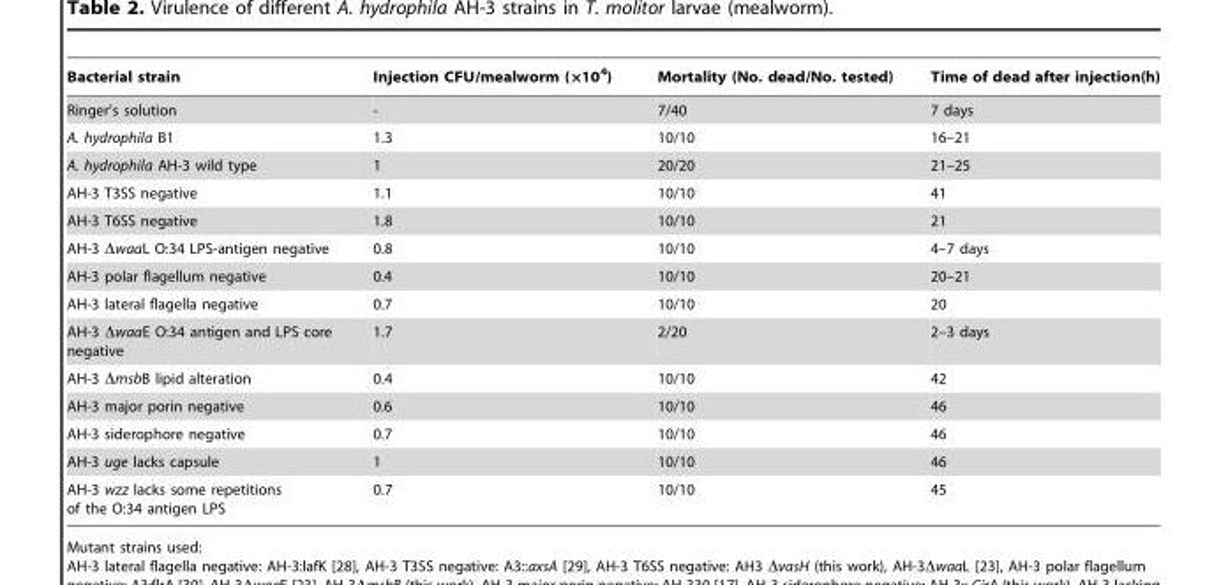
<table><thead><tr><td>Bacterial strain</td><td>Injection CFU/mealworm (×10<sup>4</sup>)</td><td>Mortality (No. dead/No. tested)</td><td>Time of dead after injection(h)</td></tr></thead><tbody><tr><td>Ringer’s solution</td><td>-</td><td>7/40</td><td>7 days</td></tr><tr><td>A. hydrophila B1</td><td>1.3</td><td>10/10</td><td>16–21</td></tr><tr><td>A. hydrophila AH-3 wild type</td><td>1</td><td>20/20</td><td>21–25</td></tr><tr><td>AH-3 T3SS negative</td><td>1.1</td><td>10/10</td><td>41</td></tr><tr><td>AH-3 T6SS negative</td><td>1.8</td><td>10/10</td><td>21</td></tr><tr><td>AH-3 ΔwaaL O:34 LPS-antigen negative</td><td>0.8</td><td>10/10</td><td>4–7 days</td></tr><tr><td>AH-3 polar flagellum negative</td><td>0.4</td><td>10/10</td><td>20–21</td></tr><tr><td>AH-3 lateral flagella negative</td><td>0.7</td><td>10/10</td><td>20</td></tr><tr><td>AH-3 ΔwaaE O:34 antigen and LPS core negative</td><td>1.7</td><td>2/20</td><td>2–3 days</td></tr><tr><td>AH-3 ΔmsbB lipid alteration</td><td>0.4</td><td>10/10</td><td>42</td></tr><tr><td>AH-3 major porin negative</td><td>0.6</td><td>10/10</td><td>46</td></tr><tr><td>AH-3 siderophore negative</td><td>0.7</td><td>10/10</td><td>46</td></tr><tr><td>AH-3 uge lacks capsule</td><td>1</td><td>10/10</td><td>46</td></tr><tr><td>AH-3 wzz lacks some repetitions of the O:34 antigen LPS</td><td>0.7</td><td>10/10</td><td>45</td></tr></tbody></table>